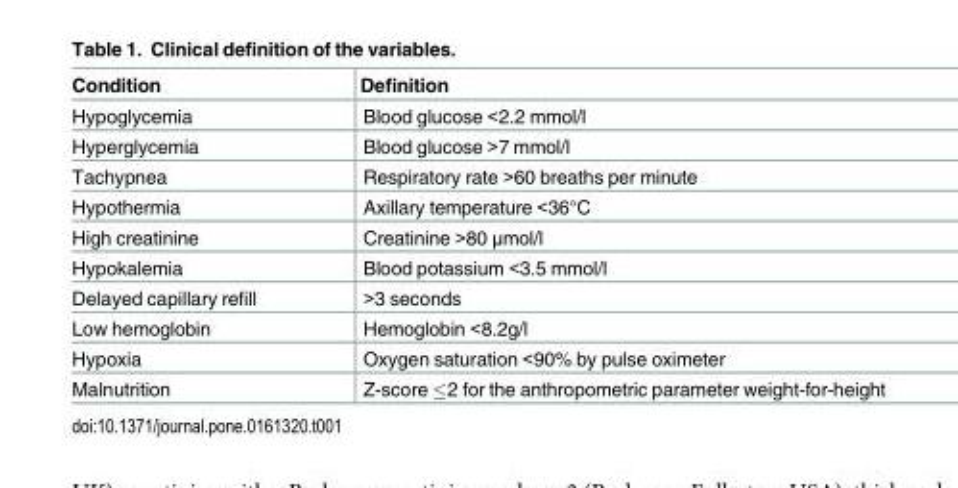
<table><thead><tr><td>Condition</td><td>Definition</td></tr></thead><tbody><tr><td>Hypoglycemia</td><td>Blood glucose &lt;2.2 mmol/l</td></tr><tr><td>Hyperglycemia</td><td>Blood glucose &gt;7 mmol/l</td></tr><tr><td>Tachypnea</td><td>Respiratory rate &gt;60 breaths per minute</td></tr><tr><td>Hypothermia</td><td>Axillary temperature &lt;36°C</td></tr><tr><td>High creatinine</td><td>Creatinine &gt;80 μmol/l</td></tr><tr><td>Hypokalemia</td><td>Blood potassium &lt;3.5 mmol/l</td></tr><tr><td>Delayed capillary refill</td><td>&gt;3 seconds</td></tr><tr><td>Low hemoglobin</td><td>Hemoglobin &lt;8.2g/l</td></tr><tr><td>Hypoxia</td><td>Oxygen saturation &lt;90% by pulse oximeter</td></tr><tr><td>Malnutrition</td><td>Z-score ≤2 for the anthropometric parameter weight-for-height</td></tr></tbody></table>